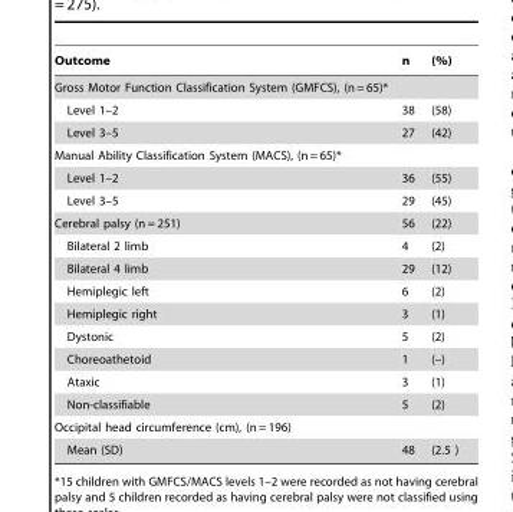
<table><thead><tr><td>Outcome</td><td>n</td><td>(%)</td></tr></thead><tbody><tr><td colspan="3">Gross Motor Function Classification System (GMFCS), (n = 65)*</td></tr><tr><td>Level 1–2</td><td>38</td><td>(58)</td></tr><tr><td>Level 3–5</td><td>27</td><td>(42)</td></tr><tr><td colspan="3">Manual Ability Classification System (MACS), (n = 65)*</td></tr><tr><td>Level 1–2</td><td>36</td><td>(55)</td></tr><tr><td>Level 3–5</td><td>29</td><td>(45)</td></tr><tr><td>Cerebral palsy (n = 251)</td><td>56</td><td>(22)</td></tr><tr><td>Bilateral 2 limb</td><td>4</td><td>(2)</td></tr><tr><td>Bilateral 4 limb</td><td>29</td><td>(12)</td></tr><tr><td>Hemiplegic left</td><td>6</td><td>(2)</td></tr><tr><td>Hemiplegic right</td><td>3</td><td>(1)</td></tr><tr><td>Dystonic</td><td>5</td><td>(2)</td></tr><tr><td>Choreoathetoid</td><td>1</td><td>(–)</td></tr><tr><td>Ataxic</td><td>3</td><td>(1)</td></tr><tr><td>Non-classifiable</td><td>5</td><td>(2)</td></tr><tr><td colspan="3">Occipital head circumference (cm), (n = 196)</td></tr><tr><td>Mean (SD)</td><td>48</td><td>(2.5 )</td></tr></tbody></table>